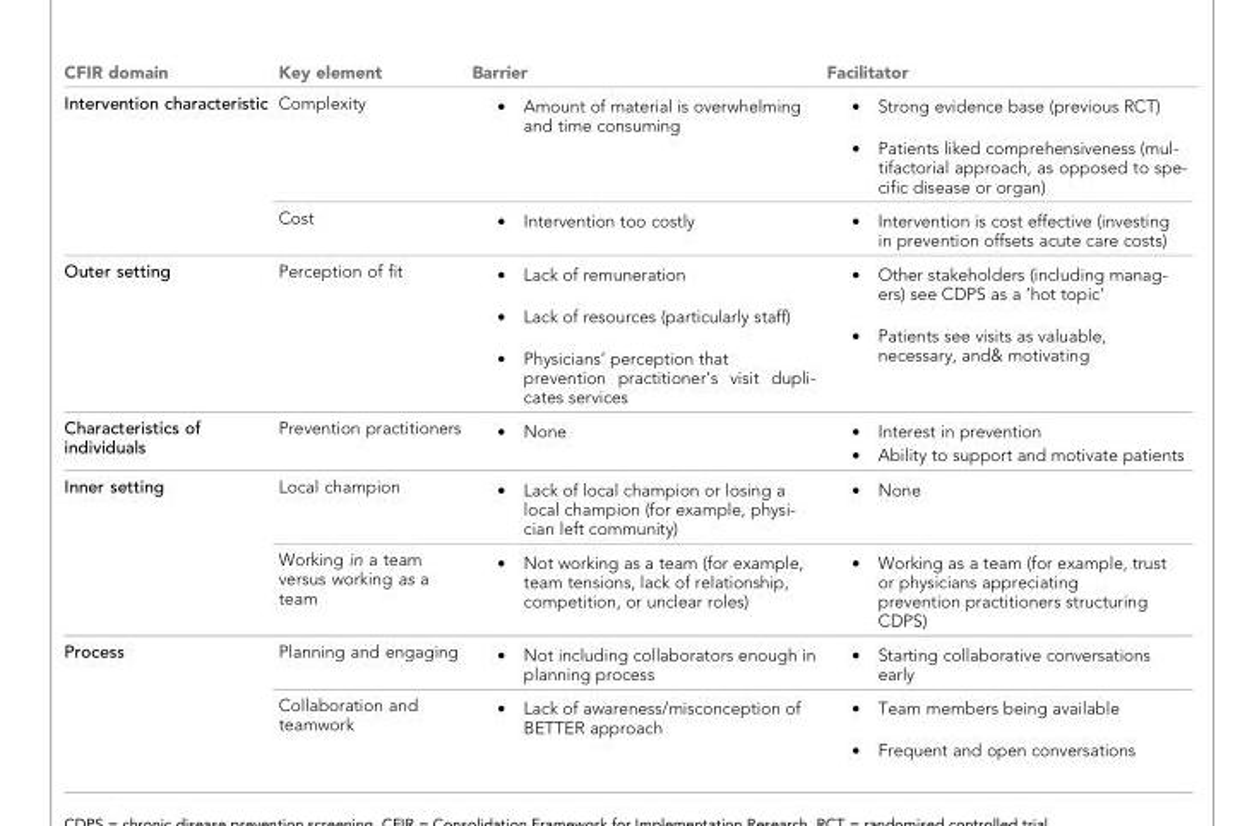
<table><thead><tr><td>CFIR domain</td><td>Key element</td><td>Barrier</td><td>Facilitator</td></tr></thead><tbody><tr><td rowspan="2">Intervention characteristic</td><td>Complexity</td><td>. Amount of material is overwhelming and time consuming</td><td>. Strong evidence base (previous RCT) . Patients liked comprehensiveness (mul- tifactorial approach, as opposed to spe- cific disease or organ)</td></tr><tr><td>Cost</td><td>. Intervention too costly</td><td>. Intervention is cost effective (investing in prevention offsets acute care costs)</td></tr><tr><td>Outer setting</td><td>Perception of fit</td><td>. Lack of remuneration . Lack of resources (particularly staff) . Physicians’ perception that prevention practitioner’s visit dupli- cates services</td><td>. Other stakeholders (including manag- ers) see CDPS as a ’hot topic’ . Patients see visits as valuable, necessary, and&amp; motivating</td></tr><tr><td>Characteristics of individuals</td><td>Prevention practitioners</td><td>. None</td><td>. Interest in prevention . Ability to support and motivate patients</td></tr><tr><td rowspan="2">Inner setting</td><td>Local champion</td><td>. Lack of local champion or losing a local champion (for example, physi- cian left community)</td><td>. None</td></tr><tr><td>Working in a team versus working as a team</td><td>. Not working as a team (for example, team tensions, lack of relationship, competition, or unclear roles)</td><td>. Working as a team (for example, trust or physicians appreciating prevention practitioners structuring CDPS)</td></tr><tr><td rowspan="2">Process</td><td>Planning and engaging</td><td>. Not including collaborators enough in planning process</td><td>. Starting collaborative conversations early</td></tr><tr><td>Collaboration and teamwork</td><td>. Lack of awareness/misconception of BETTER approach</td><td>. Team members being available . Frequent and open conversations</td></tr></tbody></table>